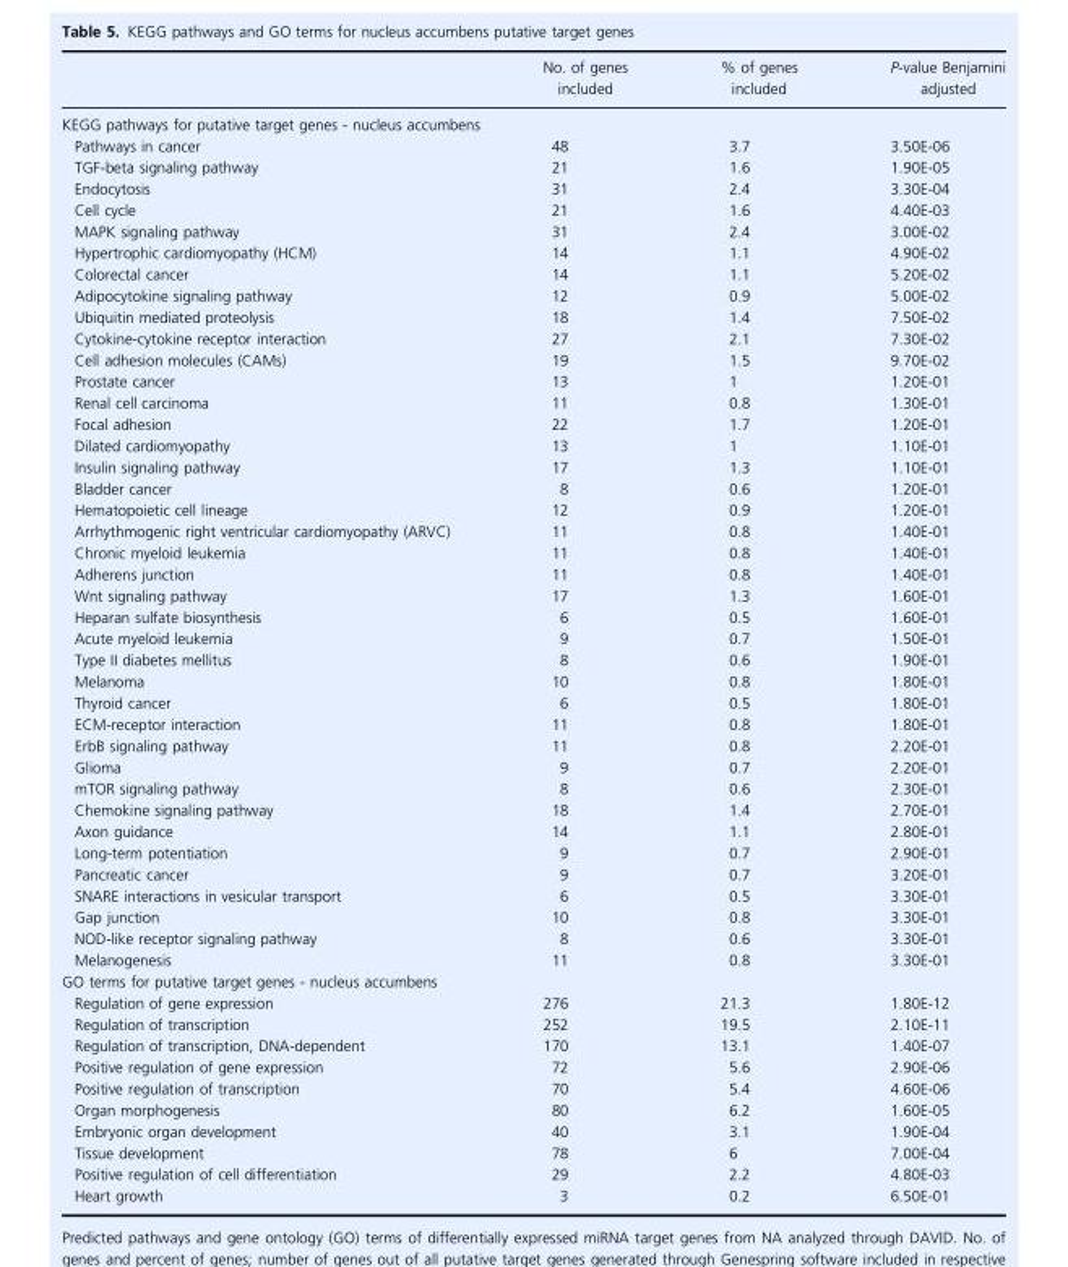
<table><thead><tr><td></td><td>No. of genes included</td><td>% of genes included</td><td>P-value Benjamini adjusted</td></tr></thead><tbody><tr><td colspan="4">KEGG pathways for putative target genes - nucleus accumbens</td></tr><tr><td>Pathways in cancer</td><td>48</td><td>3.7</td><td>3.50E-06</td></tr><tr><td>TGF-beta signaling pathway</td><td>21</td><td>1.6</td><td>1.90E-05</td></tr><tr><td>Endocytosis</td><td>31</td><td>2.4</td><td>3.30E-04</td></tr><tr><td>Cell cycle</td><td>21</td><td>1.6</td><td>4.40E-03</td></tr><tr><td>MAPK signaling pathway</td><td>31</td><td>2.4</td><td>3.00E-02</td></tr><tr><td>Hypertrophic cardiomyopathy (HCM)</td><td>14</td><td>1.1</td><td>4.90E-02</td></tr><tr><td>Colorectal cancer</td><td>14</td><td>1.1</td><td>5.20E-02</td></tr><tr><td>Adipocytokine signaling pathway</td><td>12</td><td>0.9</td><td>5.00E-02</td></tr><tr><td>Ubiquitin mediated proteolysis</td><td>18</td><td>1.4</td><td>7.50E-02</td></tr><tr><td>Cytokine-cytokine receptor interaction</td><td>27</td><td>2.1</td><td>7.30E-02</td></tr><tr><td>Cell adhesion molecules (CAMs)</td><td>19</td><td>1.5</td><td>9.70E-02</td></tr><tr><td>Prostate cancer</td><td>13</td><td>1</td><td>1.20E-01</td></tr><tr><td>Renal cell carcinoma</td><td>11</td><td>0.8</td><td>1.30E-01</td></tr><tr><td>Focal adhesion</td><td>22</td><td>1.7</td><td>1.20E-01</td></tr><tr><td>Dilated cardiomyopathy</td><td>13</td><td>1</td><td>1.10E-01</td></tr><tr><td>Insulin signaling pathway</td><td>17</td><td>1.3</td><td>1.10E-01</td></tr><tr><td>Bladder cancer</td><td>8</td><td>0.6</td><td>1.20E-01</td></tr><tr><td>Hematopoietic cell lineage</td><td>12</td><td>0.9</td><td>1.20E-01</td></tr><tr><td>Arrhythmogenic right ventricular cardiomyopathy (ARVC)</td><td>11</td><td>0.8</td><td>1.40E-01</td></tr><tr><td>Chronic myeloid leukemia</td><td>11</td><td>0.8</td><td>1.40E-01</td></tr><tr><td>Adherens junction</td><td>11</td><td>0.8</td><td>1.40E-01</td></tr><tr><td>Wnt signaling pathway</td><td>17</td><td>1.3</td><td>1.60E-01</td></tr><tr><td>Heparan sulfate biosynthesis</td><td>6</td><td>0.5</td><td>1.60E-01</td></tr><tr><td>Acute myeloid leukemia</td><td>9</td><td>0.7</td><td>1.50E-01</td></tr><tr><td>Type II diabetes mellitus</td><td>8</td><td>0.6</td><td>1.90E-01</td></tr><tr><td>Melanoma</td><td>10</td><td>0.8</td><td>1.80E-01</td></tr><tr><td>Thyroid cancer</td><td>6</td><td>0.5</td><td>1.80E-01</td></tr><tr><td>ECM-receptor interaction</td><td>11</td><td>0.8</td><td>1.80E-01</td></tr><tr><td>ErbB signaling pathway</td><td>11</td><td>0.8</td><td>2.20E-01</td></tr><tr><td>Glioma</td><td>9</td><td>0.7</td><td>2.20E-01</td></tr><tr><td>mTOR signaling pathway</td><td>8</td><td>0.6</td><td>2.30E-01</td></tr><tr><td>Chemokine signaling pathway</td><td>18</td><td>1.4</td><td>2.70E-01</td></tr><tr><td>Axon guidance</td><td>14</td><td>1.1</td><td>2.80E-01</td></tr><tr><td>Long-term potentiation</td><td>9</td><td>0.7</td><td>2.90E-01</td></tr><tr><td>Pancreatic cancer</td><td>9</td><td>0.7</td><td>3.20E-01</td></tr><tr><td>SNARE interactions in vesicular transport</td><td>6</td><td>0.5</td><td>3.30E-01</td></tr><tr><td>Gap junction</td><td>10</td><td>0.8</td><td>3.30E-01</td></tr><tr><td>NOD-like receptor signaling pathway</td><td>8</td><td>0.6</td><td>3.30E-01</td></tr><tr><td>Melanogenesis</td><td>11</td><td>0.8</td><td>3.30E-01</td></tr><tr><td colspan="4">GO terms for putative target genes - nucleus accumbens</td></tr><tr><td>Regulation of gene expression</td><td>276</td><td>21.3</td><td>1.80E-12</td></tr><tr><td>Regulation of transcription</td><td>252</td><td>19.5</td><td>2.10E-11</td></tr><tr><td>Regulation of transcription, DNA-dependent</td><td>170</td><td>13.1</td><td>1.40E-07</td></tr><tr><td>Positive regulation of gene expression</td><td>72</td><td>5.6</td><td>2.90E-06</td></tr><tr><td>Positive regulation of transcription</td><td>70</td><td>5.4</td><td>4.60E-06</td></tr><tr><td>Organ morphogenesis</td><td>80</td><td>6.2</td><td>1.60E-05</td></tr><tr><td>Embryonic organ development</td><td>40</td><td>3.1</td><td>1.90E-04</td></tr><tr><td>Tissue development</td><td>78</td><td>6</td><td>7.00E-04</td></tr><tr><td>Positive regulation of cell differentiation</td><td>29</td><td>2.2</td><td>4.80E-03</td></tr><tr><td>Heart growth</td><td>3</td><td>0.2</td><td>6.50E-01</td></tr></tbody></table>